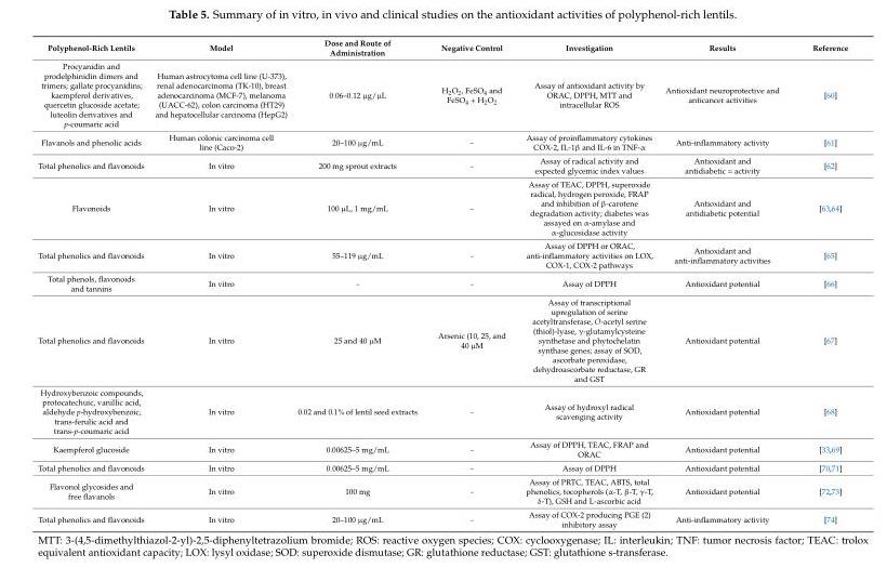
<table><thead><tr><td>Polyphenol-Rich Lentils</td><td>Model</td><td>Dose and Route of Administration</td><td>Negative Control</td><td>Investigation</td><td>Results</td><td>Reference</td></tr></thead><tbody><tr><td>Procyanidin and prodelphinidin dimers and trimers; gallate procyanidins; kaempferol derivatives, quercetin glucoside acetate; luteolin derivatives and p-coumaric acid</td><td>Human astrocytoma cell line (U-373), renal adenocarcinoma (TK-10), breast adenocarcinoma (MCF-7), melanoma (UACC-62), colon carcinoma (HT29) and hepatocellular carcinoma (HepG2)</td><td>0.06–0.12 µg/µL</td><td>H<sub>2</sub>O<sub>2</sub>, FeSO<sub>4</sub> and FeSO<sub>4</sub> + H<sub>2</sub>O<sub>2</sub></td><td>Assay of antioxidant activity by ORAC, DPPH, MTT and intracellular ROS</td><td>Antioxidant neuroprotective and anticancer activities</td><td>[60]</td></tr><tr><td>Flavanols and phenolic acids</td><td>Human colonic carcinoma cell line (Caco-2)</td><td>20–100 µg/mL</td><td>-</td><td>Assay of proinflammatory cytokines COX-2, IL-1β and IL-6 in TNF-α</td><td>Anti-inflammatory activity</td><td>[61]</td></tr><tr><td>Total phenolics and flavonoids</td><td>In vitro</td><td>200 mg sprout extracts</td><td>-</td><td>Assay of radical activity and expected glycemic index values</td><td>Antioxidant and antidiabetic = activity</td><td>[62]</td></tr><tr><td>Flavonoids</td><td>In vitro</td><td>100 µL, 1 mg/mL</td><td>-</td><td>Assay of TEAC, DPPH, superoxide radical, hydrogen peroxide, FRAP and inhibition of β-carotene degradation activity; diabetes was assayed on α-amylase and α-glucosidase activity</td><td>Antioxidant and antidiabetic potential</td><td>[63,64]</td></tr><tr><td>Total phenolics and flavonoids</td><td>In vitro</td><td>55–119 µg/mL</td><td>-</td><td>Assay of DPPH or ORAC, anti-inflammatory activities on LOX, COX-1, COX-2 pathways</td><td>Antioxidant and anti-inflammatory activities</td><td>[65]</td></tr><tr><td>Total phenols, flavonoids and tannins</td><td>In vitro</td><td>-</td><td>-</td><td>Assay of DPPH</td><td>Antioxidant potential</td><td>[66]</td></tr><tr><td>Total phenolics and flavonoids</td><td>In vitro</td><td>25 and 40 µM</td><td>Arsenic (10, 25, and 40 µM</td><td>Assay of transcriptional upregulation of serine acetyltransferase, O-acetyl serine (thiol)-lyase, γ-glutamylcysteine synthetase and phytochelatin synthase genes; assay of SOD, ascorbate peroxidase, dehydroascorbate reductase, GR and GST</td><td>Antioxidant potential</td><td>[67]</td></tr><tr><td>Hydroxybenzoic compounds, protocatechuic, vanillic acid, aldehyde p-hydroxybenzoic, trans-ferulic acid and trans-p-coumaric acid</td><td>In vitro</td><td>0.02 and 0.1% of lentil seed extracts</td><td>-</td><td>Assay of hydroxyl radical scavenging activity</td><td>Antioxidant potential</td><td>[68]</td></tr><tr><td>Kaempferol glucoside</td><td>In vitro</td><td>0.00625–5 mg/mL</td><td>-</td><td>Assay of DPPH, TEAC, FRAP and ORAC</td><td>Antioxidant potential</td><td>[33,69]</td></tr><tr><td>Total phenolics and flavonoids</td><td>In vitro</td><td>0.00625–5 mg/mL</td><td>-</td><td>Assay of DPPH</td><td>Antioxidant potential</td><td>[70,71]</td></tr><tr><td>Flavonol glycosides and free flavanols</td><td>In vitro</td><td>100 mg</td><td>-</td><td>Assay of PRTC, TEAC, ABTS, total phenolics, tocopherols (α-T, β-T, γ-T, δ-T), GSH and L-ascorbic acid</td><td>Antioxidant potential</td><td>[72,73]</td></tr><tr><td>Total phenolics and flavonoids</td><td>In vitro</td><td>20–100 µg/mL</td><td>-</td><td>Assay of COX-2 producing PGE (2) inhibitory assay</td><td>Anti-inflammatory activity</td><td>[74]</td></tr></tbody></table>